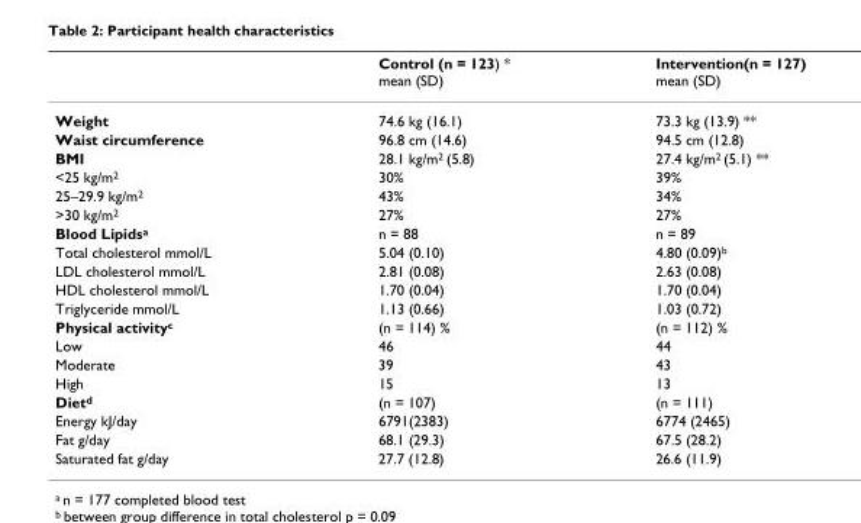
<table><thead><tr><td></td><td>Control (n = 123) * mean (SD)</td><td>Intervention(n = 127) mean (SD)</td></tr></thead><tbody><tr><td>Weight</td><td>74.6 kg (16.1)</td><td>73.3 kg (13.9) **</td></tr><tr><td>Waist circumference</td><td>96.8 cm (14.6)</td><td>94.5 cm (12.8)</td></tr><tr><td>BMI</td><td>28.1 kg/m<sup>2</sup> (5.8)</td><td>27.4 kg/m<sup>2</sup> (5.1) **</td></tr><tr><td>&lt;25 kg/m<sup>2</sup></td><td>30%</td><td>39%</td></tr><tr><td>25–29.9 kg/m<sup>2</sup></td><td>43%</td><td>34%</td></tr><tr><td>&gt;30 kg/m<sup>2</sup></td><td>27%</td><td>27%</td></tr><tr><td>Blood Lipids<sup>a</sup></td><td>n = 88</td><td>n = 89</td></tr><tr><td>Total cholesterol mmol/L</td><td>5.04 (0.10)</td><td>4.80 (0.09)<sup>b</sup></td></tr><tr><td>LDL cholesterol mmol/L</td><td>2.81 (0.08)</td><td>2.63 (0.08)</td></tr><tr><td>HDL cholesterol mmol/L</td><td>1.70 (0.04)</td><td>1.70 (0.04)</td></tr><tr><td>Triglyceride mmol/L</td><td>1.13 (0.66)</td><td>1.03 (0.72)</td></tr><tr><td>Physical activity<sup>c</sup></td><td>(n = 114) %</td><td>(n = 112) %</td></tr><tr><td>Low</td><td>46</td><td>44</td></tr><tr><td>Moderate</td><td>39</td><td>43</td></tr><tr><td>High</td><td>15</td><td>13</td></tr><tr><td>Diet<sup>d</sup></td><td>(n = 107)</td><td>(n = 111)</td></tr><tr><td>Energy kJ/day</td><td>6791(2383)</td><td>6774 (2465)</td></tr><tr><td>Fat g/day</td><td>68.1 (29.3)</td><td>67.5 (28.2)</td></tr><tr><td>Saturated fat g/day</td><td>27.7 (12.8)</td><td>26.6 (11.9)</td></tr></tbody></table>